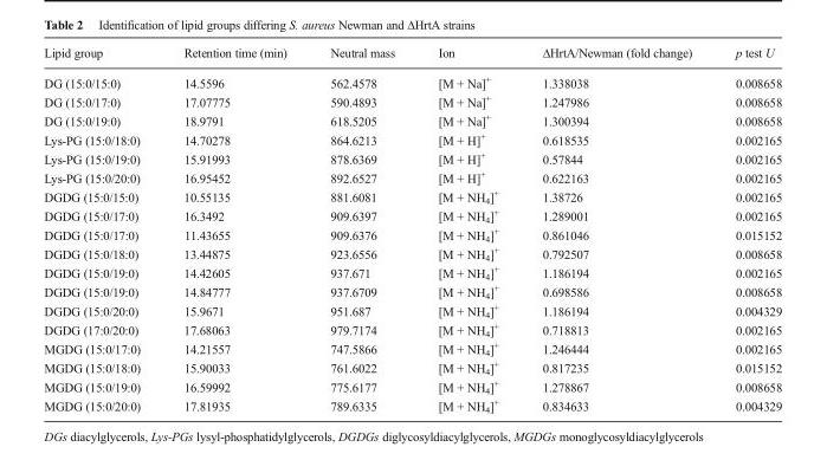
<table><thead><tr><td>Lipid group</td><td>Retention time (min)</td><td>Neutral mass</td><td>Ion</td><td>ΔHrtA/Newman (fold change)</td><td>p test U</td></tr></thead><tbody><tr><td>DG (15:0/15:0)</td><td>14.5596</td><td>562.4578</td><td>[M + Na]<sup>+</sup></td><td>1.338038</td><td>0.008658</td></tr><tr><td>DG (15:0/17:0)</td><td>17.07775</td><td>590.4893</td><td>[M + Na]<sup>+</sup></td><td>1.247986</td><td>0.008658</td></tr><tr><td>DG (15:0/19:0)</td><td>18.9791</td><td>618.5205</td><td>[M + Na]<sup>+</sup></td><td>1.300394</td><td>0.008658</td></tr><tr><td>Lys-PG (15:0/18:0)</td><td>14.70278</td><td>864.6213</td><td>[M + H]<sup>+</sup></td><td>0.618535</td><td>0.002165</td></tr><tr><td>Lys-PG (15:0/19:0)</td><td>15.91993</td><td>878.6369</td><td>[M + H]<sup>+</sup></td><td>0.57844</td><td>0.002165</td></tr><tr><td>Lys-PG (15:0/20:0)</td><td>16.95452</td><td>892.6527</td><td>[M + H]<sup>+</sup></td><td>0.622163</td><td>0.002165</td></tr><tr><td>DGDG (15:0/15:0)</td><td>10.55135</td><td>881.6081</td><td>[M + NH<sub>4</sub>]<sup>+</sup></td><td>1.38726</td><td>0.002165</td></tr><tr><td>DGDG (15:0/17:0)</td><td>16.3492</td><td>909.6397</td><td>[M + NH<sub>4</sub>]<sup>+</sup></td><td>1.289001</td><td>0.002165</td></tr><tr><td>DGDG (15:0/17:0)</td><td>11.43655</td><td>909.6376</td><td>[M + NH<sub>4</sub>]<sup>+</sup></td><td>0.861046</td><td>0.015152</td></tr><tr><td>DGDG (15:0/18:0)</td><td>13.44875</td><td>923.6556</td><td>[M + NH<sub>4</sub>]<sup>+</sup></td><td>0.792507</td><td>0.008658</td></tr><tr><td>DGDG (15:0/19:0)</td><td>14.42605</td><td>937.671</td><td>[M + NH<sub>4</sub>]<sup>+</sup></td><td>1.186194</td><td>0.002165</td></tr><tr><td>DGDG (15:0/19:0)</td><td>14.84777</td><td>937.6709</td><td>[M + NH<sub>4</sub>]<sup>+</sup></td><td>0.698586</td><td>0.008658</td></tr><tr><td>DGDG (15:0/20:0)</td><td>15.9671</td><td>951.687</td><td>[M + NH<sub>4</sub>]<sup>+</sup></td><td>1.186194</td><td>0.004329</td></tr><tr><td>DGDG (17:0/20:0)</td><td>17.68063</td><td>979.7174</td><td>[M + NH<sub>4</sub>]<sup>+</sup></td><td>0.718813</td><td>0.002165</td></tr><tr><td>MGDG (15:0/17:0)</td><td>14.21557</td><td>747.5866</td><td>[M + NH<sub>4</sub>]<sup>+</sup></td><td>1.246444</td><td>0.002165</td></tr><tr><td>MGDG (15:0/18:0)</td><td>15.90033</td><td>761.6022</td><td>[M + NH<sub>4</sub>]<sup>+</sup></td><td>0.817235</td><td>0.015152</td></tr><tr><td>MGDG (15:0/19:0)</td><td>16.59992</td><td>775.6177</td><td>[M + NH<sub>4</sub>]<sup>+</sup></td><td>1.278867</td><td>0.008658</td></tr><tr><td>MGDG (15:0/20:0)</td><td>17.81935</td><td>789.6335</td><td>[M + NH<sub>4</sub>]<sup>+</sup></td><td>0.834633</td><td>0.004329</td></tr></tbody></table>